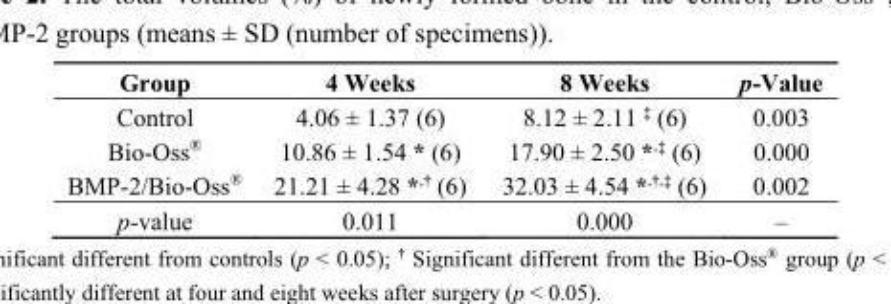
<table><thead><tr><td>Group</td><td>4 Weeks</td><td>8 Weeks</td><td>p-Value</td></tr></thead><tbody><tr><td>Control</td><td>4.06 ± 1.37 (6)</td><td>8.12 ± 2.11 <sup>‡</sup> (6)</td><td>0.003</td></tr><tr><td>Bio-Oss<sup>®</sup></td><td>10.86 ± 1.54 * (6)</td><td>17.90 ± 2.50 *<sup>,‡</sup> (6)</td><td>0.000</td></tr><tr><td>BMP-2/Bio-Oss<sup>®</sup></td><td>21.21 ± 4.28 *<sup>,†</sup> (6)</td><td>32.03 ± 4.54 *<sup>,†,‡</sup> (6)</td><td>0.002</td></tr><tr><td>p-value</td><td>0.011</td><td>0.000</td><td>–</td></tr></tbody></table>